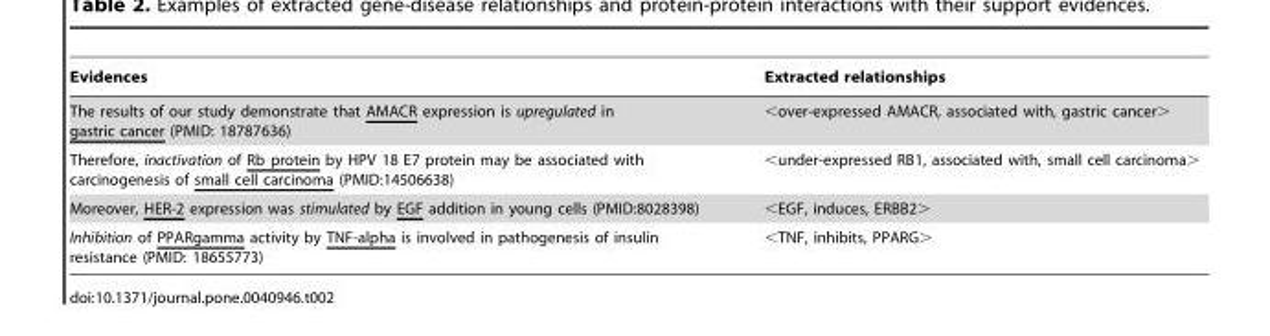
<table><thead><tr><td>Evidences</td><td>Extracted relationships</td></tr></thead><tbody><tr><td>The results of our study demonstrate that AMACR expression is upregulated in gastric cancer (PMID: 18787636)</td><td>&lt;over-expressed AMACR, associated with, gastric cancer&gt;</td></tr><tr><td>Therefore, inactivation of Rb protein by HPV 18 E7 protein may be associated with carcinogenesis of small cell carcinoma (PMID:14506638)</td><td>&lt;under-expressed RB1, associated with, small cell carcinoma&gt;</td></tr><tr><td>Moreover, HER-2 expression was stimulated by EGF addition in young cells (PMID:8028398)</td><td>&lt;EGF, induces, ERBB2&gt;</td></tr><tr><td>Inhibition of PPARgamma activity by TNF-alpha is involved in pathogenesis of insulin resistance (PMID: 18655773)</td><td>&lt;TNF, inhibits, PPARG&gt;</td></tr></tbody></table>